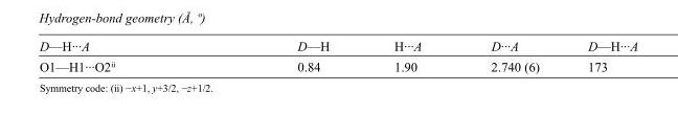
<table><tbody><tr><td>D—H···A</td><td>D—H</td><td>H···A</td><td>D···A</td><td>D—H···A</td></tr><tr><td>O1—H1···O2<sup>ii</sup></td><td>0.84</td><td>1.90</td><td>2.740 (6)</td><td>173</td></tr></tbody></table>